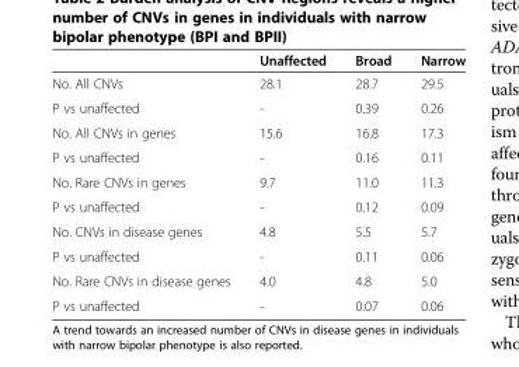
<table><thead><tr><td></td><td>Unaffected</td><td>Broad</td><td>Narrow</td></tr></thead><tbody><tr><td>No. All CNVs</td><td>28.1</td><td>28.7</td><td>29.5</td></tr><tr><td>P vs unaffected</td><td>-</td><td>0.39</td><td>0.26</td></tr><tr><td>No. All CNVs in genes</td><td>15.6</td><td>16.8</td><td>17.3</td></tr><tr><td>P vs unaffected</td><td>-</td><td>0.16</td><td>0.11</td></tr><tr><td>No. Rare CNVs in genes</td><td>9.7</td><td>11.0</td><td>11.3</td></tr><tr><td>P vs unaffected</td><td>-</td><td>0.12</td><td>0.09</td></tr><tr><td>No. CNVs in disease genes</td><td>4.8</td><td>5.5</td><td>5.7</td></tr><tr><td>P vs unaffected</td><td>-</td><td>0.11</td><td>0.06</td></tr><tr><td>No. Rare CNVs in disease genes</td><td>4.0</td><td>4.8</td><td>5.0</td></tr><tr><td>P vs unaffected</td><td>-</td><td>0.07</td><td>0.06</td></tr></tbody></table>